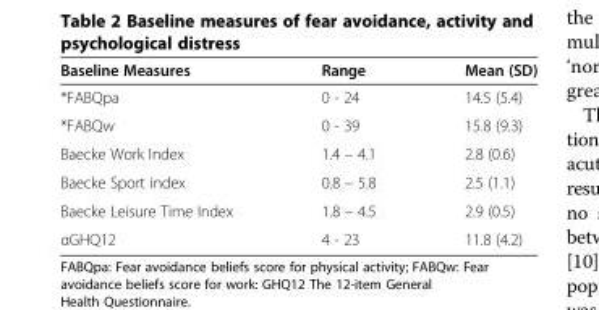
<table><thead><tr><td>Baseline Measures</td><td>Range</td><td>Mean (SD)</td></tr></thead><tbody><tr><td>*FABQpa</td><td>0 - 24</td><td>14.5 (5.4)</td></tr><tr><td>*FABQw</td><td>0 - 39</td><td>15.8 (9.3)</td></tr><tr><td>Baecke Work Index</td><td>1.4 – 4.1</td><td>2.8 (0.6)</td></tr><tr><td>Baecke Sport index</td><td>0.8 – 5.8</td><td>2.5 (1.1)</td></tr><tr><td>Baecke Leisure Time Index</td><td>1.8 – 4.5</td><td>2.9 (0.5)</td></tr><tr><td>αGHQ12</td><td>4 - 23</td><td>11.8 (4.2)</td></tr></tbody></table>